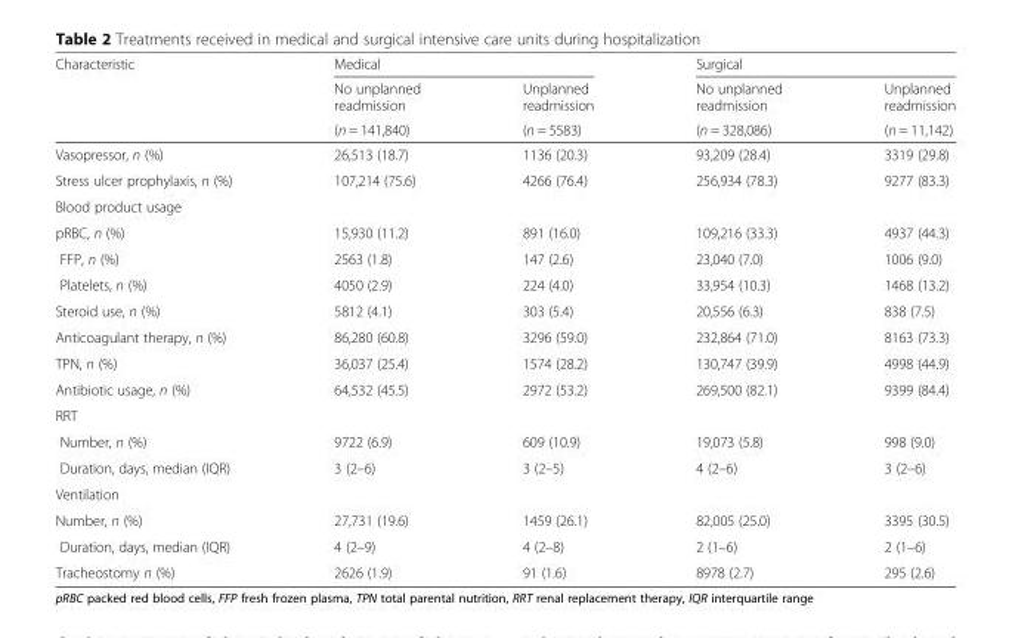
<table><thead><tr><td rowspan="3">Characteristic</td><td colspan="2">Medical</td><td colspan="2">Surgical</td></tr><tr><td rowspan="2">No unplanned readmission (n = 141,840)</td><td rowspan="2">Unplanned readmission (n = 5583)</td><td rowspan="2">No unplanned readmission (n = 328,086)</td><td rowspan="2">Unplanned readmission (n = 11,142)</td></tr><tr></tr></thead><tbody><tr><td>Vasopressor, n (%)</td><td>26,513 (18.7)</td><td>1136 (20.3)</td><td>93,209 (28.4)</td><td>3319 (29.8)</td></tr><tr><td>Stress ulcer prophylaxis, n (%)</td><td>107,214 (75.6)</td><td>4266 (76.4)</td><td>256,934 (78.3)</td><td>9277 (83.3)</td></tr><tr><td colspan="5">Blood product usage</td></tr><tr><td>pRBC, n (%)</td><td>15,930 (11.2)</td><td>891 (16.0)</td><td>109,216 (33.3)</td><td>4937 (44.3)</td></tr><tr><td>FFP, n (%)</td><td>2563 (1.8)</td><td>147 (2.6)</td><td>23,040 (7.0)</td><td>1006 (9.0)</td></tr><tr><td>Platelets, n (%)</td><td>4050 (2.9)</td><td>224 (4.0)</td><td>33,954 (10.3)</td><td>1468 (13.2)</td></tr><tr><td>Steroid use, n (%)</td><td>5812 (4.1)</td><td>303 (5.4)</td><td>20,556 (6.3)</td><td>838 (7.5)</td></tr><tr><td>Anticoagulant therapy, n (%)</td><td>86,280 (60.8)</td><td>3296 (59.0)</td><td>232,864 (71.0)</td><td>8163 (73.3)</td></tr><tr><td>TPN, n (%)</td><td>36,037 (25.4)</td><td>1574 (28.2)</td><td>130,747 (39.9)</td><td>4998 (44.9)</td></tr><tr><td>Antibiotic usage, n (%)</td><td>64,532 (45.5)</td><td>2972 (53.2)</td><td>269,500 (82.1)</td><td>9399 (84.4)</td></tr><tr><td colspan="5">RRT</td></tr><tr><td>Number, n (%)</td><td>9722 (6.9)</td><td>609 (10.9)</td><td>19,073 (5.8)</td><td>998 (9.0)</td></tr><tr><td>Duration, days, median (IQR)</td><td>3 (2–6)</td><td>3 (2–5)</td><td>4 (2–6)</td><td>3 (2–6)</td></tr><tr><td colspan="5">Ventilation</td></tr><tr><td>Number, n (%)</td><td>27,731 (19.6)</td><td>1459 (26.1)</td><td>82,005 (25.0)</td><td>3395 (30.5)</td></tr><tr><td>Duration, days, median (IQR)</td><td>4 (2–9)</td><td>4 (2–8)</td><td>2 (1–6)</td><td>2 (1–6)</td></tr><tr><td>Tracheostomy n (%)</td><td>2626 (1.9)</td><td>91 (1.6)</td><td>8978 (2.7)</td><td>295 (2.6)</td></tr></tbody></table>